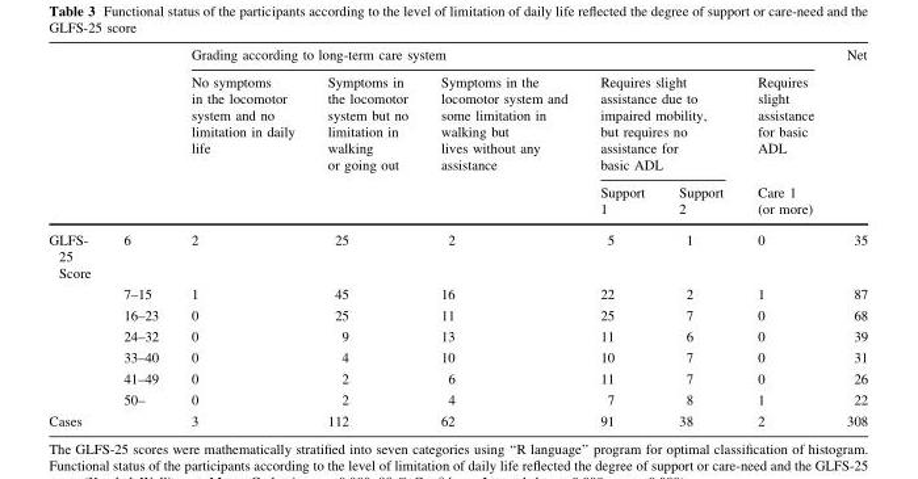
<table><thead><tr><td rowspan="3"></td><td rowspan="3"></td><td colspan="6">Grading according to long-term care system</td><td rowspan="3">Net</td></tr><tr><td rowspan="2">No symptoms in the locomotor system and no limitation in daily life</td><td rowspan="2">Symptoms in the locomotor system but no limitation in walking or going out</td><td rowspan="2">Symptoms in the locomotor system and some limitation in walking but lives without any assistance</td><td colspan="2">Requires slight assistance due to impaired mobility, but requires no assistance for basic ADL</td><td rowspan="2">Requires slight assistance for basic ADL Care 1 (or more)</td></tr><tr><td>Support 1</td><td>Support 2</td></tr></thead><tbody><tr><td rowspan="7">GLFS- 25 Score</td><td>6</td><td>2</td><td>25</td><td>2</td><td>5</td><td>1</td><td>0</td><td>35</td></tr><tr><td>7–15</td><td>1</td><td>45</td><td>16</td><td>22</td><td>2</td><td>1</td><td>87</td></tr><tr><td>16–23</td><td>0</td><td>25</td><td>11</td><td>25</td><td>7</td><td>0</td><td>68</td></tr><tr><td>24–32</td><td>0</td><td>9</td><td>13</td><td>11</td><td>6</td><td>0</td><td>39</td></tr><tr><td>33–40</td><td>0</td><td>4</td><td>10</td><td>10</td><td>7</td><td>0</td><td>31</td></tr><tr><td>41–49</td><td>0</td><td>2</td><td>6</td><td>11</td><td>7</td><td>0</td><td>26</td></tr><tr><td>50–</td><td>0</td><td>2</td><td>4</td><td>7</td><td>8</td><td>1</td><td>22</td></tr><tr><td colspan="2">Cases</td><td>3</td><td>112</td><td>62</td><td>91</td><td>38</td><td>2</td><td>308</td></tr></tbody></table>